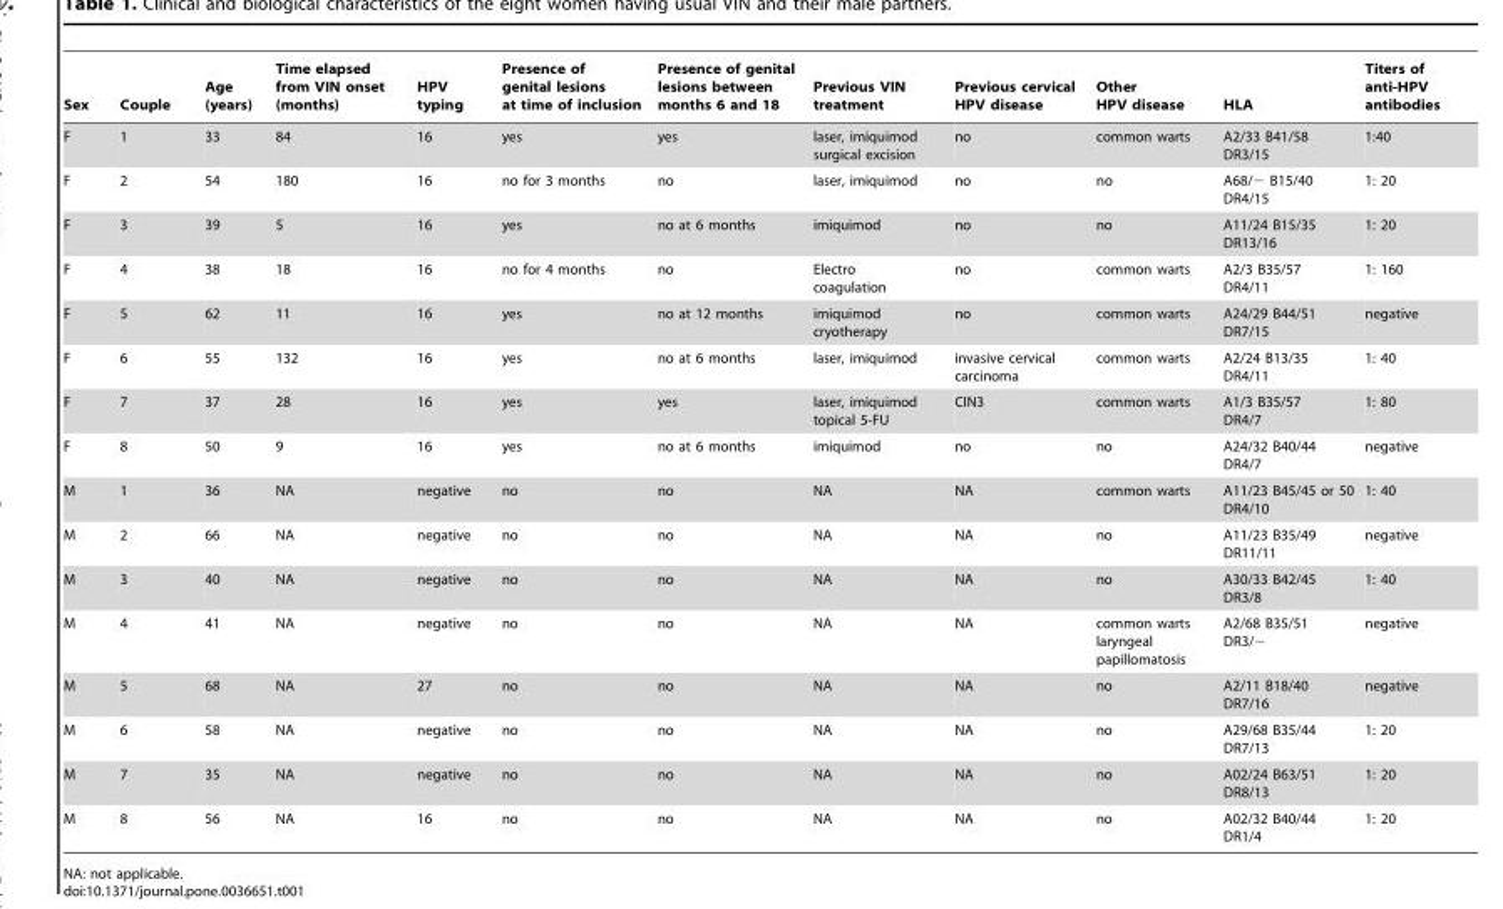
<table><thead><tr><td>Sex</td><td>Couple</td><td>Age (years)</td><td>Time elapsed from VIN onset (months)</td><td>HPV typing</td><td>Presence of genital lesions at time of inclusion</td><td>Presence of genital lesions between months 6 and 18</td><td>Previous VIN treatment</td><td>Previous cervical HPV disease</td><td>Other HPV disease</td><td>HLA</td><td>Titers of anti-HPV antibodies</td></tr></thead><tbody><tr><td>F</td><td>1</td><td>33</td><td>84</td><td>16</td><td>yes</td><td>yes</td><td>laser, imiquimod surgical excision</td><td>no</td><td>common warts</td><td>A2/33 B41/58 DR3/15</td><td>1:40</td></tr><tr><td>F</td><td>2</td><td>54</td><td>180</td><td>16</td><td>no for 3 months</td><td>no</td><td>laser, imiquimod</td><td>no</td><td>no</td><td>A68/− B15/40 DR4/15</td><td>1: 20</td></tr><tr><td>F</td><td>3</td><td>39</td><td>5</td><td>16</td><td>yes</td><td>no at 6 months</td><td>imiquimod</td><td>no</td><td>no</td><td>A11/24 B15/35 DR13/16</td><td>1: 20</td></tr><tr><td>F</td><td>4</td><td>38</td><td>18</td><td>16</td><td>no for 4 months</td><td>no</td><td>Electro coagulation</td><td>no</td><td>common warts</td><td>A2/3 B35/57 DR4/11</td><td>1: 160</td></tr><tr><td>F</td><td>5</td><td>62</td><td>11</td><td>16</td><td>yes</td><td>no at 12 months</td><td>imiquimod cryotherapy</td><td>no</td><td>common warts</td><td>A24/29 B44/51 DR7/15</td><td>negative</td></tr><tr><td>F</td><td>6</td><td>55</td><td>132</td><td>16</td><td>yes</td><td>no at 6 months</td><td>laser, imiquimod</td><td>invasive cervical carcinoma</td><td>common warts</td><td>A2/24 B13/35 DR4/11</td><td>1: 40</td></tr><tr><td>F</td><td>7</td><td>37</td><td>28</td><td>16</td><td>yes</td><td>yes</td><td>laser, imiquimod topical 5-FU</td><td>CIN3</td><td>common warts</td><td>A1/3 B35/57 DR4/7</td><td>1: 80</td></tr><tr><td>F</td><td>8</td><td>50</td><td>9</td><td>16</td><td>yes</td><td>no at 6 months</td><td>imiquimod</td><td>no</td><td>no</td><td>A24/32 B40/44 DR4/7</td><td>negative</td></tr><tr><td>M</td><td>1</td><td>36</td><td>NA</td><td>negative</td><td>no</td><td>no</td><td>NA</td><td>NA</td><td>common warts</td><td>A11/23 B45/45 or 50 DR4/10</td><td>1: 40</td></tr><tr><td>M</td><td>2</td><td>66</td><td>NA</td><td>negative</td><td>no</td><td>no</td><td>NA</td><td>NA</td><td>no</td><td>A11/23 B35/49 DR11/11</td><td>negative</td></tr><tr><td>M</td><td>3</td><td>40</td><td>NA</td><td>negative</td><td>no</td><td>no</td><td>NA</td><td>NA</td><td>no</td><td>A30/33 B42/45 DR3/8</td><td>1: 40</td></tr><tr><td>M</td><td>4</td><td>41</td><td>NA</td><td>negative</td><td>no</td><td>no</td><td>NA</td><td>NA</td><td>common warts laryngeal papillomatosis</td><td>A2/68 B35/51 DR3/−</td><td>negative</td></tr><tr><td>M</td><td>5</td><td>68</td><td>NA</td><td>27</td><td>no</td><td>no</td><td>NA</td><td>NA</td><td>no</td><td>A2/11 B18/40 DR7/16</td><td>negative</td></tr><tr><td>M</td><td>6</td><td>58</td><td>NA</td><td>negative</td><td>no</td><td>no</td><td>NA</td><td>NA</td><td>no</td><td>A29/68 B35/44 DR7/13</td><td>1: 20</td></tr><tr><td>M</td><td>7</td><td>35</td><td>NA</td><td>negative</td><td>no</td><td>no</td><td>NA</td><td>NA</td><td>no</td><td>A02/24 B63/51 DR8/13</td><td>1: 20</td></tr><tr><td>M</td><td>8</td><td>56</td><td>NA</td><td>16</td><td>no</td><td>no</td><td>NA</td><td>NA</td><td>no</td><td>A02/32 B40/44 DR1/4</td><td>1: 20</td></tr></tbody></table>